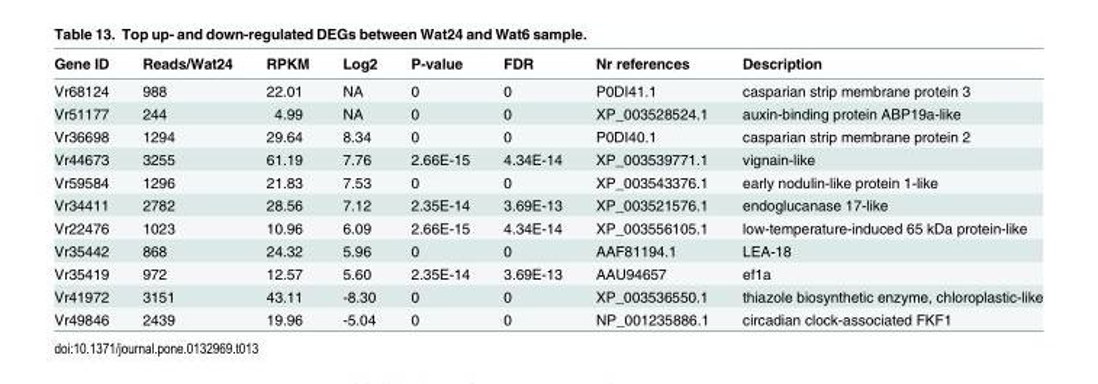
<table><thead><tr><td>Gene ID</td><td>Reads/Wat24</td><td>RPKM</td><td>Log2</td><td>P-value</td><td>FDR</td><td>Nr references</td><td>Description</td></tr></thead><tbody><tr><td>Vr68124</td><td>988</td><td>22.01</td><td>NA</td><td>0</td><td>0</td><td>P0DI41.1</td><td>casparian strip membrane protein 3</td></tr><tr><td>Vr51177</td><td>244</td><td>4.99</td><td>NA</td><td>0</td><td>0</td><td>XP_003528524.1</td><td>auxin-binding protein ABP19a-like</td></tr><tr><td>Vr36698</td><td>1294</td><td>29.64</td><td>8.34</td><td>0</td><td>0</td><td>P0DI40.1</td><td>casparian strip membrane protein 2</td></tr><tr><td>Vr44673</td><td>3255</td><td>61.19</td><td>7.76</td><td>2.66E-15</td><td>4.34E-14</td><td>XP_003539771.1</td><td>vignain-like</td></tr><tr><td>Vr59584</td><td>1296</td><td>21.83</td><td>7.53</td><td>0</td><td>0</td><td>XP_003543376.1</td><td>early nodulin-like protein 1-like</td></tr><tr><td>Vr34411</td><td>2782</td><td>28.56</td><td>7.12</td><td>2.35E-14</td><td>3.69E-13</td><td>XP_003521576.1</td><td>endoglucanase 17-like</td></tr><tr><td>Vr22476</td><td>1023</td><td>10.96</td><td>6.09</td><td>2.66E-15</td><td>4.34E-14</td><td>XP_003556105.1</td><td>low-temperature-induced 65 kDa protein-like</td></tr><tr><td>Vr35442</td><td>868</td><td>24.32</td><td>5.96</td><td>0</td><td>0</td><td>AAF81194.1</td><td>LEA-18</td></tr><tr><td>Vr35419</td><td>972</td><td>12.57</td><td>5.60</td><td>2.35E-14</td><td>3.69E-13</td><td>AAU94657</td><td>ef1a</td></tr><tr><td>Vr41972</td><td>3151</td><td>43.11</td><td>-8.30</td><td>0</td><td>0</td><td>XP_003536550.1</td><td>thiazole biosynthetic enzyme, chloroplastic-like</td></tr><tr><td>Vr49846</td><td>2439</td><td>19.96</td><td>-5.04</td><td>0</td><td>0</td><td>NP_001235886.1</td><td>circadian clock-associated FKF1</td></tr></tbody></table>